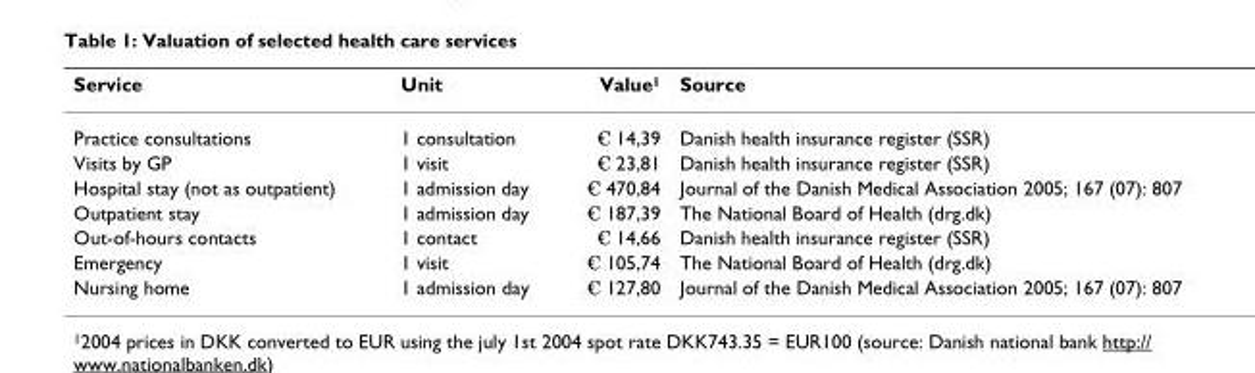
<table><thead><tr><td>Service</td><td>Unit</td><td>Value<sup>1</sup></td><td>Source</td></tr></thead><tbody><tr><td>Practice consultations</td><td>1 consultation</td><td>€ 14,39</td><td>Danish health insurance register (SSR)</td></tr><tr><td>Visits by GP</td><td>1 visit</td><td>€ 23,81</td><td>Danish health insurance register (SSR)</td></tr><tr><td>Hospital stay (not as outpatient)</td><td>1 admission day</td><td>€ 470,84</td><td>Journal of the Danish Medical Association 2005; 167 (07): 807</td></tr><tr><td>Outpatient stay</td><td>1 admission day</td><td>€ 187,39</td><td>The National Board of Health (drg.dk)</td></tr><tr><td>Out-of-hours contacts</td><td>1 contact</td><td>€ 14,66</td><td>Danish health insurance register (SSR)</td></tr><tr><td>Emergency</td><td>1 visit</td><td>€ 105,74</td><td>The National Board of Health (drg.dk)</td></tr><tr><td>Nursing home</td><td>1 admission day</td><td>€ 127,80</td><td>Journal of the Danish Medical Association 2005; 167 (07): 807</td></tr></tbody></table>